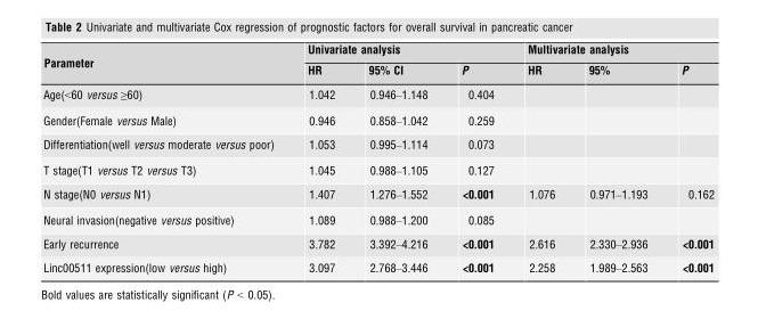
<table><thead><tr><td rowspan="2">Parameter</td><td colspan="3">Univariate analysis</td><td colspan="3">Multivariate analysis</td></tr><tr><td>HR</td><td>95% CI</td><td>P</td><td>HR</td><td>95%</td><td>P</td></tr></thead><tbody><tr><td>Age(&lt;60 versus ≥60)</td><td>1.042</td><td>0.946–1.148</td><td>0.404</td><td></td><td></td><td></td></tr><tr><td>Gender(Female versus Male)</td><td>0.946</td><td>0.858–1.042</td><td>0.259</td><td></td><td></td><td></td></tr><tr><td>Differentiation(well versus moderate versus poor)</td><td>1.053</td><td>0.995–1.114</td><td>0.073</td><td></td><td></td><td></td></tr><tr><td>T stage(T1 versus T2 versus T3)</td><td>1.045</td><td>0.988–1.105</td><td>0.127</td><td></td><td></td><td></td></tr><tr><td>N stage(N0 versus N1)</td><td>1.407</td><td>1.276–1.552</td><td>&lt;0.001</td><td>1.076</td><td>0.971–1.193</td><td>0.162</td></tr><tr><td>Neural invasion(negative versus positive)</td><td>1.089</td><td>0.988–1.200</td><td>0.085</td><td></td><td></td><td></td></tr><tr><td>Early recurrence</td><td>3.782</td><td>3.392–4.216</td><td>&lt;0.001</td><td>2.616</td><td>2.330–2.936</td><td>&lt;0.001</td></tr><tr><td>Linc00511 expression(low versus high)</td><td>3.097</td><td>2.768–3.446</td><td>&lt;0.001</td><td>2.258</td><td>1.989–2.563</td><td>&lt;0.001</td></tr></tbody></table>